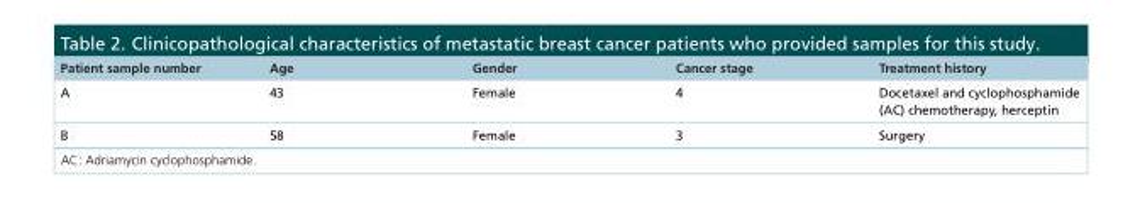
<table><thead><tr><td>Patient sample number</td><td>Age</td><td>Gender</td><td>Cancer stage</td><td>Treatment history</td></tr></thead><tbody><tr><td>A</td><td>43</td><td>Female</td><td>4</td><td>Docetaxel and cyclophosphamide (AC) chemotherapy, herceptin</td></tr><tr><td>B</td><td>58</td><td>Female</td><td>3</td><td>Surgery</td></tr></tbody></table>